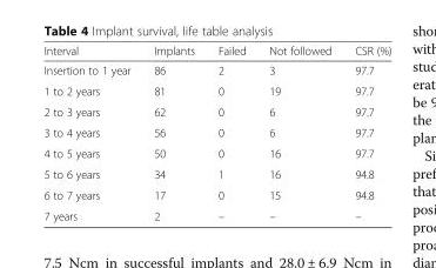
<table><thead><tr><td>Interval</td><td>Implants</td><td>Failed</td><td>Not followed</td><td>CSR (%)</td></tr></thead><tbody><tr><td>Insertion to 1 year</td><td>86</td><td>2</td><td>3</td><td>97.7</td></tr><tr><td>1 to 2 years</td><td>81</td><td>0</td><td>19</td><td>97.7</td></tr><tr><td>2 to 3 years</td><td>62</td><td>0</td><td>6</td><td>97.7</td></tr><tr><td>3 to 4 years</td><td>56</td><td>0</td><td>6</td><td>97.7</td></tr><tr><td>4 to 5 years</td><td>50</td><td>0</td><td>16</td><td>97.7</td></tr><tr><td>5 to 6 years</td><td>34</td><td>1</td><td>16</td><td>94.8</td></tr><tr><td>6 to 7 years</td><td>17</td><td>0</td><td>15</td><td>94.8</td></tr><tr><td>7 years</td><td>2</td><td>–</td><td>–</td><td>–</td></tr></tbody></table>